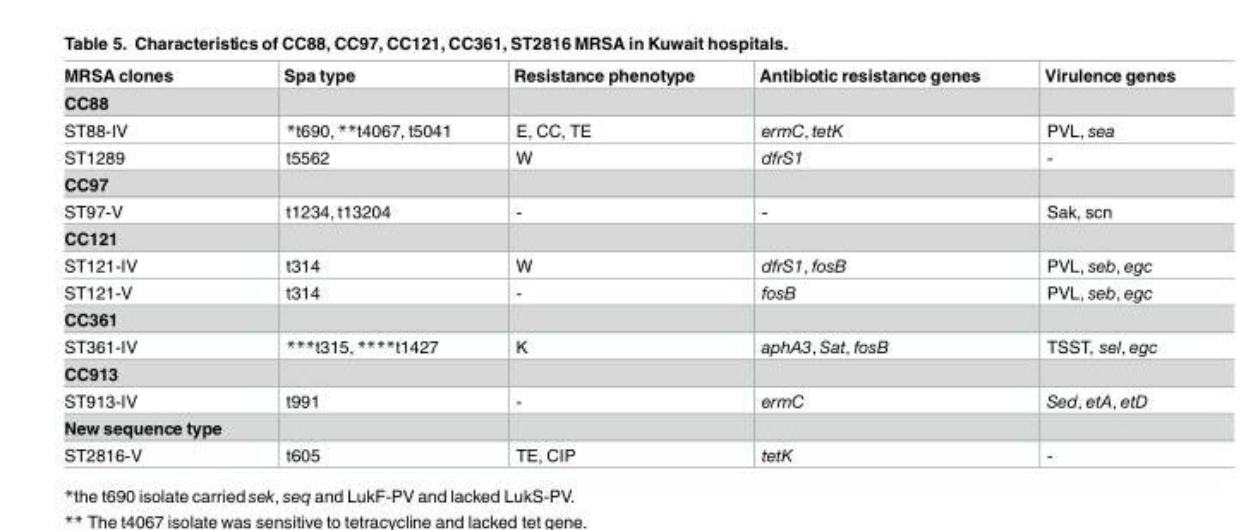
<table><thead><tr><td>MRSA clones</td><td>Spa type</td><td>Resistance phenotype</td><td>Antibiotic resistance genes</td><td>Virulence genes</td></tr></thead><tbody><tr><td colspan="5">CC88</td></tr><tr><td>ST88-IV</td><td>*t690, **t4067, t5041</td><td>E, CC, TE</td><td>ermC, tetK</td><td>PVL, sea</td></tr><tr><td>ST1289</td><td>t5562</td><td>W</td><td>dfrS1</td><td>-</td></tr><tr><td colspan="5">CC97</td></tr><tr><td>ST97-V</td><td>t1234, t13204</td><td>-</td><td>-</td><td>Sak, scn</td></tr><tr><td colspan="5">CC121</td></tr><tr><td>ST121-IV</td><td>t314</td><td>W</td><td>dfrS1, fosB</td><td>PVL, seb, egc</td></tr><tr><td>ST121-V</td><td>t314</td><td>-</td><td>fosB</td><td>PVL, seb, egc</td></tr><tr><td colspan="5">CC361</td></tr><tr><td>ST361-IV</td><td>***t315, ****t1427</td><td>K</td><td>aphA3, Sat, fosB</td><td>TSST, sel, egc</td></tr><tr><td colspan="5">CC913</td></tr><tr><td>ST913-IV</td><td>t991</td><td>-</td><td>ermC</td><td>Sed, etA, etD</td></tr><tr><td colspan="5">New sequence type</td></tr><tr><td>ST2816-V</td><td>t605</td><td>TE, CIP</td><td>tetK</td><td>-</td></tr></tbody></table>